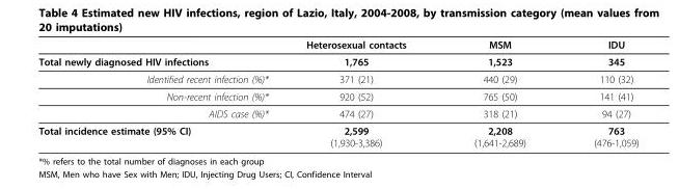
<table><thead><tr><td></td><td>Heterosexual contacts</td><td>MSM</td><td>IDU</td></tr></thead><tbody><tr><td>Total newly diagnosed HIV infections</td><td>1,765</td><td>1,523</td><td>345</td></tr><tr><td>Identified recent infection (%)*</td><td>371 (21)</td><td>440 (29)</td><td>110 (32)</td></tr><tr><td>Non-recent infection (%)*</td><td>920 (52)</td><td>765 (50)</td><td>141 (41)</td></tr><tr><td>AIDS case (%)*</td><td>474 (27)</td><td>318 (21)</td><td>94 (27)</td></tr><tr><td>Total incidence estimate (95% CI)</td><td>2,599 (1,930-3,386)</td><td>2,208 (1,641-2,689)</td><td>763 (476-1,059)</td></tr></tbody></table>